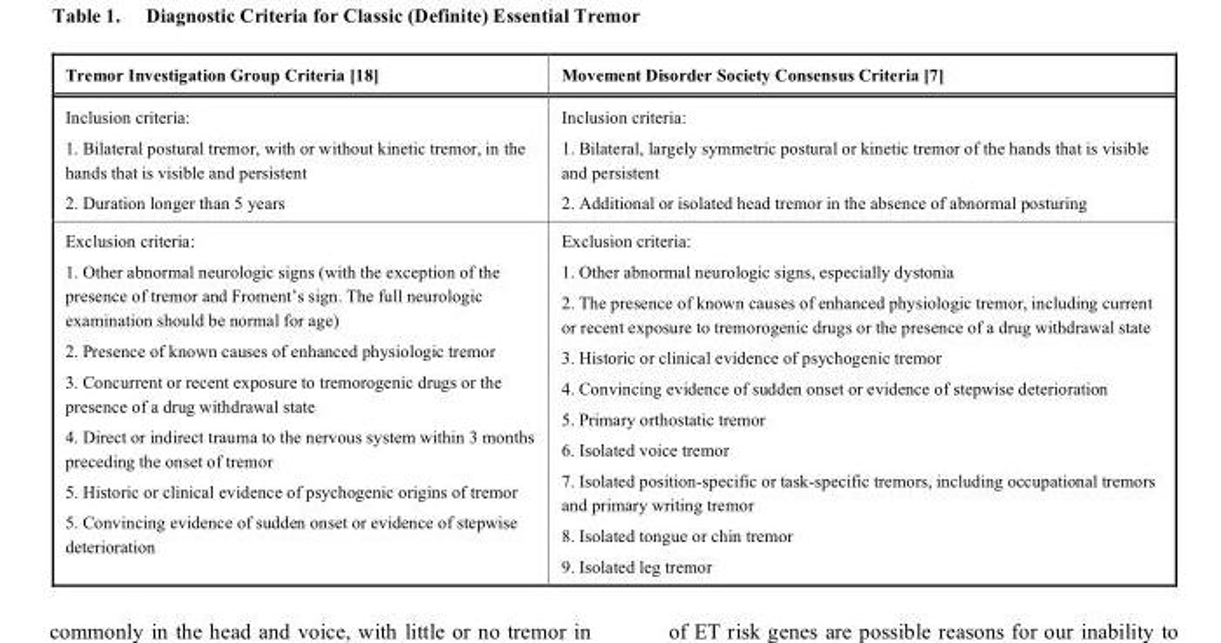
<table><thead><tr><td>Tremor Investigation Group Criteria [18]</td><td>Movement Disorder Society Consensus Criteria [7]</td></tr></thead><tbody><tr><td>Inclusion criteria: 1. Bilateral postural tremor, with or without kinetic tremor, in the hands that is visible and persistent 2. Duration longer than 5 years</td><td>Inclusion criteria: 1. Bilateral, largely symmetric postural or kinetic tremor of the hands that is visible and persistent 2. Additional or isolated head tremor in the absence of abnormal posturing</td></tr><tr><td>Exclusion criteria: 1. Other abnormal neurologic signs (with the exception of the presence of tremor and Froment’s sign. The full neurologic examination should be normal for age) 2. Presence of known causes of enhanced physiologic tremor 3. Concurrent or recent exposure to tremorogenic drugs or the presence of a drug withdrawal state 4. Direct or indirect trauma to the nervous system within 3 months preceding the onset of tremor 5. Historic or clinical evidence of psychogenic origins of tremor 5. Convincing evidence of sudden onset or evidence of stepwise deterioration</td><td>Exclusion criteria: 1. Other abnormal neurologic signs, especially dystonia 2. The presence of known causes of enhanced physiologic tremor, including current or recent exposure to tremorogenic drugs or the presence of a drug withdrawal state 3. Historic or clinical evidence of psychogenic tremor 4. Convincing evidence of sudden onset or evidence of stepwise deterioration 5. Primary orthostatic tremor 6. Isolated voice tremor 7. Isolated position-specific or task-specific tremors, including occupational tremors and primary writing tremor 8. Isolated tongue or chin tremor 9. Isolated leg tremor</td></tr></tbody></table>